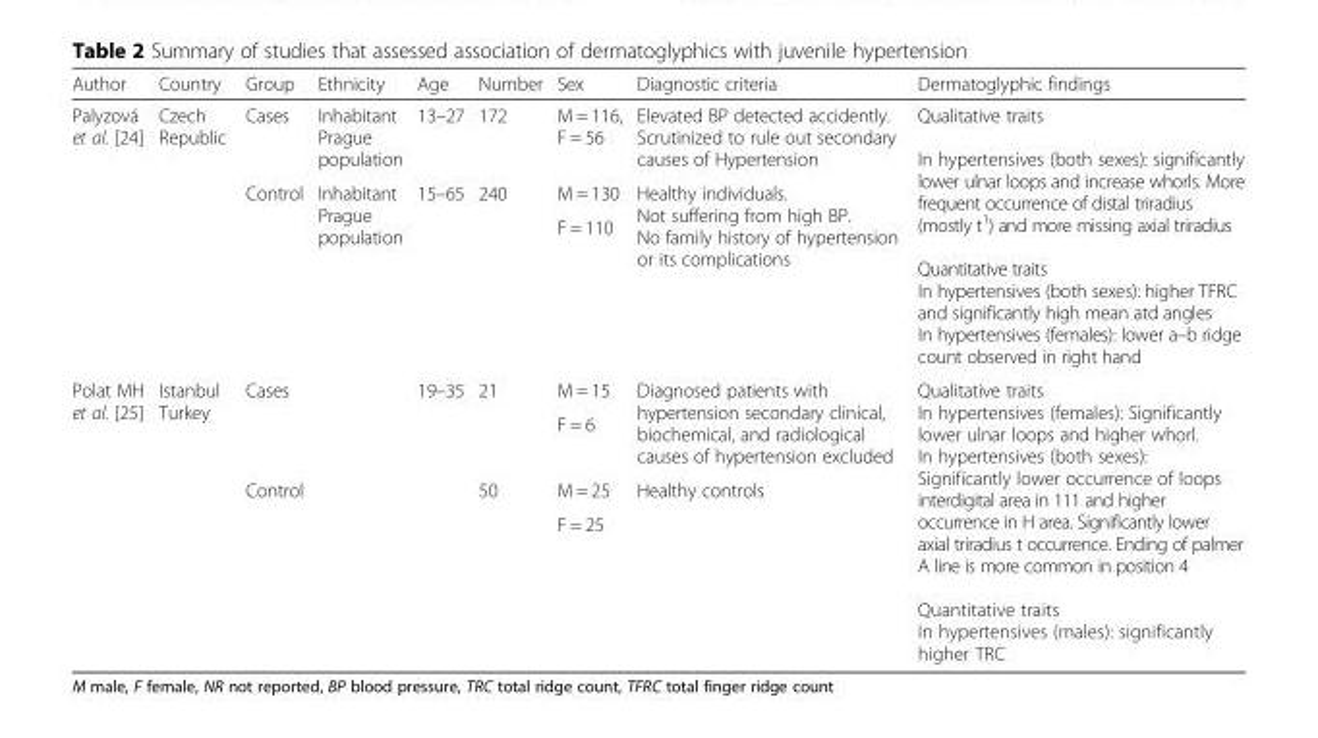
<table><thead><tr><td>Author</td><td>Country</td><td>Group</td><td>Ethnicity</td><td>Age</td><td>Number</td><td>Sex</td><td>Diagnostic criteria</td><td>Dermatoglyphic findings</td></tr></thead><tbody><tr><td rowspan="3">Palyzová et al. [24]</td><td rowspan="3">Czech Republic</td><td>Cases</td><td>Inhabitant Prague population</td><td>13–27</td><td>172</td><td>M = 116, F = 56</td><td>Elevated BP detected accidently. Scrutinized to rule out secondary causes of Hypertension</td><td rowspan="3">Qualitative traits In hypertensives (both sexes): significantly lower ulnar loops and increase whorls. More frequent occurrence of distal triradius (mostly t<sup>1</sup>) and more missing axial triradius Quantitative traits In hypertensives (both sexes): higher TFRC and significantly high mean atd angles In hypertensives (females): lower a–b ridge count observed in right hand</td></tr><tr><td rowspan="2">Control</td><td rowspan="2">Inhabitant Prague population</td><td rowspan="2">15–65</td><td rowspan="2">240</td><td>M = 130</td><td rowspan="2">Healthy individuals. Not suffering from high BP. No family history of hypertension or its complications</td></tr><tr><td>F = 110</td></tr><tr><td rowspan="4">Polat MH et al. [25]</td><td rowspan="4">Istanbul Turkey</td><td rowspan="2">Cases</td><td rowspan="2"></td><td rowspan="2">19–35</td><td rowspan="2">21</td><td>M = 15</td><td rowspan="2">Diagnosed patients with hypertension secondary clinical, biochemical, and radiological causes of hypertension excluded</td><td rowspan="4">Qualitative traits In hypertensives (females): Significantly lower ulnar loops and higher whorl. In hypertensives (both sexes): Significantly lower occurrence of loops interdigital area in 111 and higher occurrence in H area. Significantly lower axial triradius t occurrence. Ending of palmer A line is more common in position 4 Quantitative traits In hypertensives (males): significantly higher TRC</td></tr><tr><td>F = 6</td></tr><tr><td rowspan="2">Control</td><td rowspan="2"></td><td rowspan="2"></td><td rowspan="2">50</td><td>M = 25</td><td rowspan="2">Healthy controls</td></tr><tr><td>F = 25</td></tr></tbody></table>